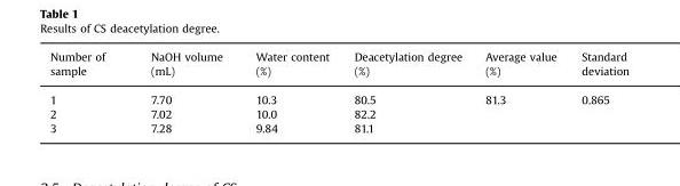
<table><thead><tr><td>Number of sample</td><td>NaOH volume (mL)</td><td>Water content (%)</td><td>Deacetylation degree (%)</td><td>Average value (%)</td><td>Standard deviation</td></tr></thead><tbody><tr><td>1</td><td>7.70</td><td>10.3</td><td>80.5</td><td rowspan="3">81.3</td><td rowspan="3">0.865</td></tr><tr><td>2</td><td>7.02</td><td>10.0</td><td>82.2</td></tr><tr><td>3</td><td>7.28</td><td>9.84</td><td>81.1</td></tr></tbody></table>